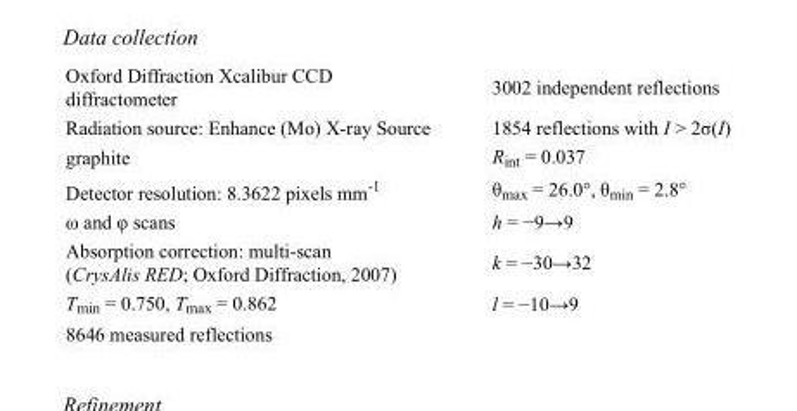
<table><tbody><tr><td>Oxford Diffraction Xcalibur CCD diffractometer</td><td>3002 independent reflections</td></tr><tr><td>Radiation source: Enhance (Mo) X-ray Source</td><td>1854 reflections with I &gt; 2σ(I)</td></tr><tr><td>graphite</td><td>R<sub>int</sub> = 0.037</td></tr><tr><td>Detector resolution: 8.3622 pixels mm<sup>-1</sup></td><td>θ<sub>max</sub> = 26.0°, θ<sub>min</sub> = 2.8°</td></tr><tr><td>ω and φ scans</td><td>h = −9→9</td></tr><tr><td>Absorption correction: multi-scan (CrysAlis RED; Oxford Diffraction, 2007)</td><td>k = −30→32</td></tr><tr><td>T<sub>min</sub> = 0.750, T<sub>max</sub> = 0.862</td><td>l = −10→9</td></tr><tr><td>8646 measured reflections</td><td></td></tr></tbody></table>